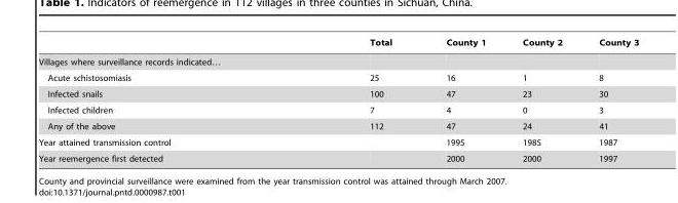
<table><thead><tr><td></td><td>Total</td><td>County 1</td><td>County 2</td><td>County 3</td></tr></thead><tbody><tr><td colspan="5">Villages where surveillance records indicated…</td></tr><tr><td>Acute schistosomiasis</td><td>25</td><td>16</td><td>1</td><td>8</td></tr><tr><td>Infected snails</td><td>100</td><td>47</td><td>23</td><td>30</td></tr><tr><td>Infected children</td><td>7</td><td>4</td><td>0</td><td>3</td></tr><tr><td>Any of the above</td><td>112</td><td>47</td><td>24</td><td>41</td></tr><tr><td>Year attained transmission control</td><td></td><td>1995</td><td>1985</td><td>1987</td></tr><tr><td>Year reemergence first detected</td><td></td><td>2000</td><td>2000</td><td>1997</td></tr></tbody></table>